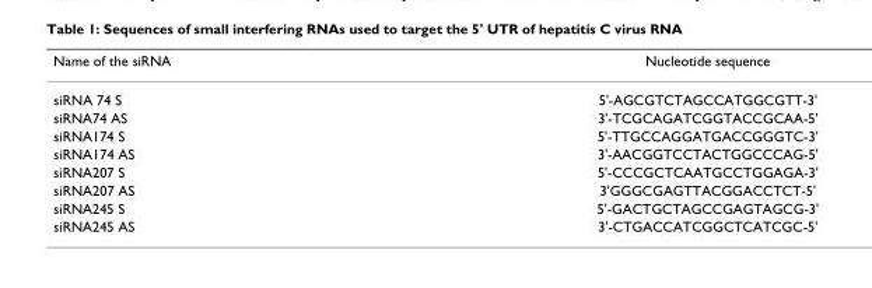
<table><thead><tr><td>Name of the siRNA</td><td>Nucleotide sequence</td></tr></thead><tbody><tr><td>siRNA 74 S</td><td>5&#x27;-AGCGTCTAGCCATGGCGTT-3&#x27;</td></tr><tr><td>siRNA74 AS</td><td>3&#x27;-TCGCAGATCGGTACCGCAA-5&#x27;</td></tr><tr><td>siRNA174 S</td><td>5&#x27;-TTGCCAGGATGACCGGGTC-3&#x27;</td></tr><tr><td>siRNA174 AS</td><td>3&#x27;-AACGGTCCTACTGGCCCAG-5&#x27;</td></tr><tr><td>siRNA207 S</td><td>5&#x27;-CCCGCTCAATGCCTGGAGA-3&#x27;</td></tr><tr><td>siRNA207 AS</td><td>3&#x27;GGGCGAGTTACGGACCTCT-5&#x27;</td></tr><tr><td>siRNA245 S</td><td>5&#x27;-GACTGCTAGCCGAGTAGCG-3&#x27;</td></tr><tr><td>siRNA245 AS</td><td>3&#x27;-CTGACCATCGGCTCATCGC-5&#x27;</td></tr></tbody></table>